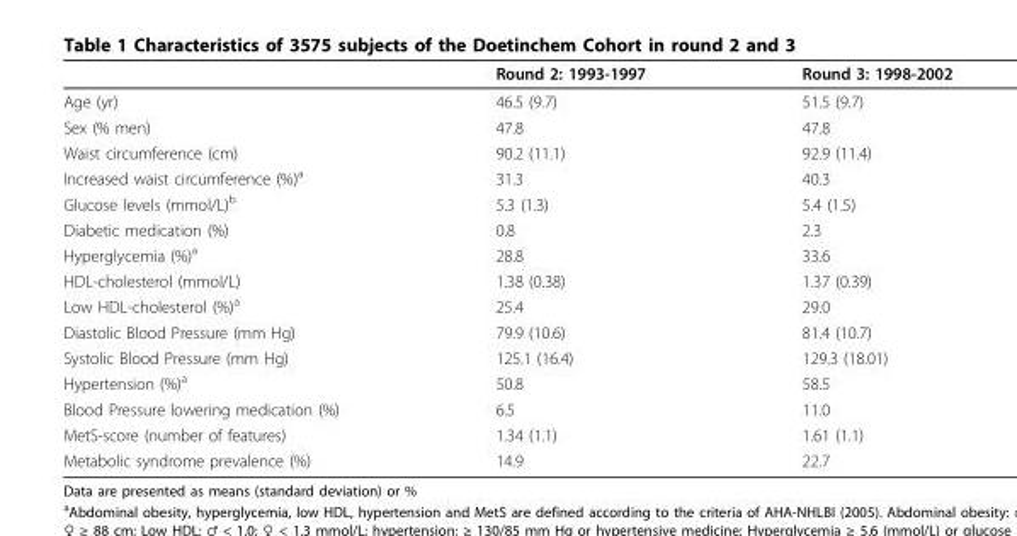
<table><thead><tr><td></td><td>Round 2: 1993-1997</td><td>Round 3: 1998-2002</td></tr></thead><tbody><tr><td>Age (yr)</td><td>46.5 (9.7)</td><td>51.5 (9.7)</td></tr><tr><td>Sex (% men)</td><td>47.8</td><td>47.8</td></tr><tr><td>Waist circumference (cm)</td><td>90.2 (11.1)</td><td>92.9 (11.4)</td></tr><tr><td>Increased waist circumference (%)<sup>a</sup></td><td>31.3</td><td>40.3</td></tr><tr><td>Glucose levels (mmol/L)<sup>b</sup></td><td>5.3 (1.3)</td><td>5.4 (1.5)</td></tr><tr><td>Diabetic medication (%)</td><td>0.8</td><td>2.3</td></tr><tr><td>Hyperglycemia (%)<sup>a</sup></td><td>28.8</td><td>33.6</td></tr><tr><td>HDL-cholesterol (mmol/L)</td><td>1.38 (0.38)</td><td>1.37 (0.39)</td></tr><tr><td>Low HDL-cholesterol (%)<sup>a</sup></td><td>25.4</td><td>29.0</td></tr><tr><td>Diastolic Blood Pressure (mm Hg)</td><td>79.9 (10.6)</td><td>81.4 (10.7)</td></tr><tr><td>Systolic Blood Pressure (mm Hg)</td><td>125.1 (16.4)</td><td>129.3 (18.01)</td></tr><tr><td>Hypertension (%)<sup>a</sup></td><td>50.8</td><td>58.5</td></tr><tr><td>Blood Pressure lowering medication (%)</td><td>6.5</td><td>11.0</td></tr><tr><td>MetS-score (number of features)</td><td>1.34 (1.1)</td><td>1.61 (1.1)</td></tr><tr><td>Metabolic syndrome prevalence (%)</td><td>14.9</td><td>22.7</td></tr></tbody></table>